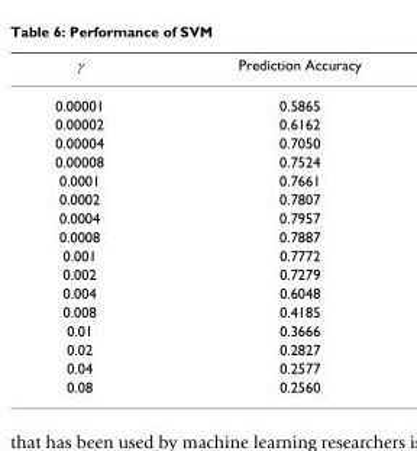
<table><thead><tr><td>γ</td><td>Prediction Accuracy</td></tr></thead><tbody><tr><td>0.00001</td><td>0.5865</td></tr><tr><td>0.00002</td><td>0.6162</td></tr><tr><td>0.00004</td><td>0.7050</td></tr><tr><td>0.00008</td><td>0.7524</td></tr><tr><td>0.0001</td><td>0.7661</td></tr><tr><td>0.0002</td><td>0.7807</td></tr><tr><td>0.0004</td><td>0.7957</td></tr><tr><td>0.0008</td><td>0.7887</td></tr><tr><td>0.001</td><td>0.7772</td></tr><tr><td>0.002</td><td>0.7279</td></tr><tr><td>0.004</td><td>0.6048</td></tr><tr><td>0.008</td><td>0.4185</td></tr><tr><td>0.01</td><td>0.3666</td></tr><tr><td>0.02</td><td>0.2827</td></tr><tr><td>0.04</td><td>0.2577</td></tr><tr><td>0.08</td><td>0.2560</td></tr></tbody></table>